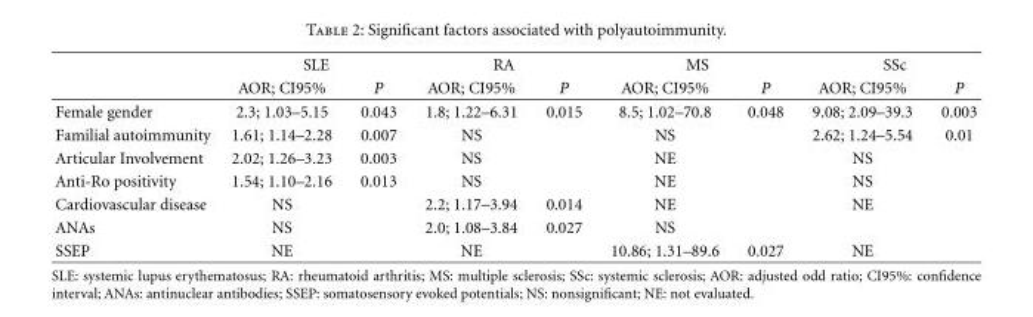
<table><thead><tr><td rowspan="2"></td><td colspan="2">SLE</td><td colspan="2">RA</td><td colspan="2">MS</td><td colspan="2">SSc</td></tr><tr><td>AOR; CI95%</td><td>P</td><td>AOR; CI95%</td><td>P</td><td>AOR; CI95%</td><td>P</td><td>AOR; CI95%</td><td>P</td></tr></thead><tbody><tr><td>Female gender</td><td>2.3; 1.03–5.15</td><td>0.043</td><td>1.8; 1.22–6.31</td><td>0.015</td><td>8.5; 1.02–70.8</td><td>0.048</td><td>9.08; 2.09–39.3</td><td>0.003</td></tr><tr><td>Familial autoimmunity</td><td>1.61; 1.14–2.28</td><td>0.007</td><td>NS</td><td></td><td>NS</td><td></td><td>2.62; 1.24–5.54</td><td>0.01</td></tr><tr><td>Articular Involvement</td><td>2.02; 1.26–3.23</td><td>0.003</td><td>NS</td><td></td><td>NE</td><td></td><td>NS</td><td></td></tr><tr><td>Anti-Ro positivity</td><td>1.54; 1.10–2.16</td><td>0.013</td><td>NS</td><td></td><td>NE</td><td></td><td>NS</td><td></td></tr><tr><td>Cardiovascular disease</td><td>NS</td><td></td><td>2.2; 1.17–3.94</td><td>0.014</td><td>NE</td><td></td><td>NE</td><td></td></tr><tr><td>ANAs</td><td>NS</td><td></td><td>2.0; 1.08–3.84</td><td>0.027</td><td>NS</td><td></td><td></td><td></td></tr><tr><td>SSEP</td><td>NE</td><td></td><td>NE</td><td></td><td>10.86; 1.31–89.6</td><td>0.027</td><td>NE</td><td></td></tr></tbody></table>